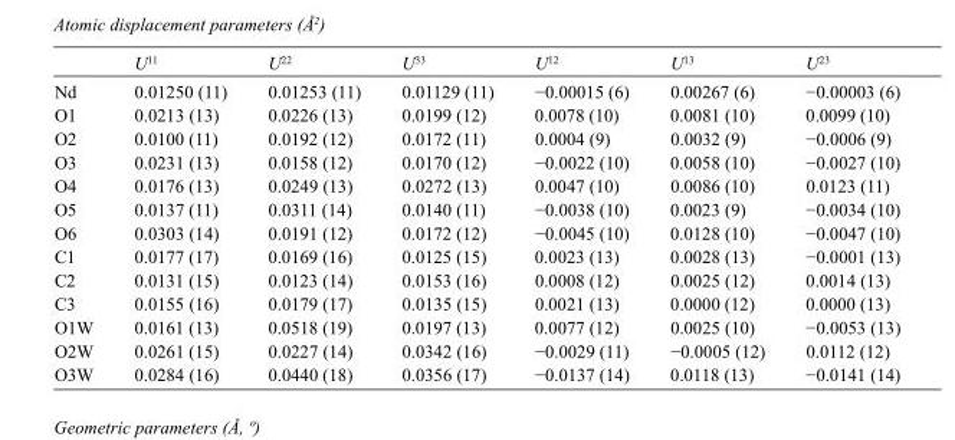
<table><thead><tr><td></td><td>U<sup>11</sup></td><td>U<sup>22</sup></td><td>U<sup>33</sup></td><td>U<sup>12</sup></td><td>U<sup>13</sup></td><td>U<sup>23</sup></td></tr></thead><tbody><tr><td>Nd</td><td>0.01250 (11)</td><td>0.01253 (11)</td><td>0.01129 (11)</td><td>−0.00015 (6)</td><td>0.00267 (6)</td><td>−0.00003 (6)</td></tr><tr><td>O1</td><td>0.0213 (13)</td><td>0.0226 (13)</td><td>0.0199 (12)</td><td>0.0078 (10)</td><td>0.0081 (10)</td><td>0.0099 (10)</td></tr><tr><td>O2</td><td>0.0100 (11)</td><td>0.0192 (12)</td><td>0.0172 (11)</td><td>0.0004 (9)</td><td>0.0032 (9)</td><td>−0.0006 (9)</td></tr><tr><td>O3</td><td>0.0231 (13)</td><td>0.0158 (12)</td><td>0.0170 (12)</td><td>−0.0022 (10)</td><td>0.0058 (10)</td><td>−0.0027 (10)</td></tr><tr><td>O4</td><td>0.0176 (13)</td><td>0.0249 (13)</td><td>0.0272 (13)</td><td>0.0047 (10)</td><td>0.0086 (10)</td><td>0.0123 (11)</td></tr><tr><td>O5</td><td>0.0137 (11)</td><td>0.0311 (14)</td><td>0.0140 (11)</td><td>−0.0038 (10)</td><td>0.0023 (9)</td><td>−0.0034 (10)</td></tr><tr><td>O6</td><td>0.0303 (14)</td><td>0.0191 (12)</td><td>0.0172 (12)</td><td>−0.0045 (10)</td><td>0.0128 (10)</td><td>−0.0047 (10)</td></tr><tr><td>C1</td><td>0.0177 (17)</td><td>0.0169 (16)</td><td>0.0125 (15)</td><td>0.0023 (13)</td><td>0.0028 (13)</td><td>−0.0001 (13)</td></tr><tr><td>C2</td><td>0.0131 (15)</td><td>0.0123 (14)</td><td>0.0153 (16)</td><td>0.0008 (12)</td><td>0.0025 (12)</td><td>0.0014 (13)</td></tr><tr><td>C3</td><td>0.0155 (16)</td><td>0.0179 (17)</td><td>0.0135 (15)</td><td>0.0021 (13)</td><td>0.0000 (12)</td><td>0.0000 (13)</td></tr><tr><td>O1W</td><td>0.0161 (13)</td><td>0.0518 (19)</td><td>0.0197 (13)</td><td>0.0077 (12)</td><td>0.0025 (10)</td><td>−0.0053 (13)</td></tr><tr><td>O2W</td><td>0.0261 (15)</td><td>0.0227 (14)</td><td>0.0342 (16)</td><td>−0.0029 (11)</td><td>−0.0005 (12)</td><td>0.0112 (12)</td></tr><tr><td>O3W</td><td>0.0284 (16)</td><td>0.0440 (18)</td><td>0.0356 (17)</td><td>−0.0137 (14)</td><td>0.0118 (13)</td><td>−0.0141 (14)</td></tr></tbody></table>